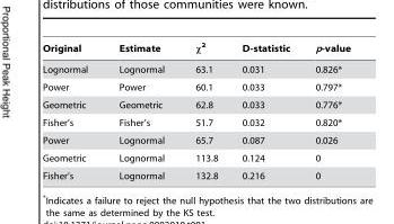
<table><thead><tr><td>Original</td><td>Estimate</td><td>χ<sup>2</sup></td><td>D-statistic</td><td>p-value</td></tr></thead><tbody><tr><td>Lognormal</td><td>Lognormal</td><td>63.1</td><td>0.031</td><td>0.826*</td></tr><tr><td>Power</td><td>Power</td><td>60.1</td><td>0.033</td><td>0.797*</td></tr><tr><td>Geometric</td><td>Geometric</td><td>62.8</td><td>0.033</td><td>0.776*</td></tr><tr><td>Fisher’s</td><td>Fisher’s</td><td>51.7</td><td>0.032</td><td>0.820*</td></tr><tr><td>Power</td><td>Lognormal</td><td>65.7</td><td>0.087</td><td>0.026</td></tr><tr><td>Geometric</td><td>Lognormal</td><td>113.8</td><td>0.124</td><td>0</td></tr><tr><td>Fisher’s</td><td>Lognormal</td><td>132.8</td><td>0.216</td><td>0</td></tr></tbody></table>